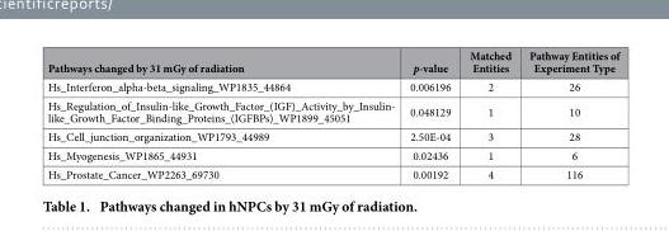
<table><thead><tr><td>Pathways changed by 31 mGy of radiation</td><td>p-value</td><td>Matched Entities</td><td>Pathway Entities of Experiment Type</td></tr></thead><tbody><tr><td>Hs_Interferon_alpha-beta_signaling_WP1835_44864</td><td>0.006196</td><td>2</td><td>26</td></tr><tr><td>Hs_Regulation_of_Insulin-like_Growth_Factor_(IGF)_Activity_by_Insulin- like_Growth_Factor_Binding_Proteins_(IGFBPs)_WP1899_45051</td><td>0.048129</td><td>1</td><td>10</td></tr><tr><td>Hs_Cell_junction_organization_WP1793_44989</td><td>2.50E-04</td><td>3</td><td>28</td></tr><tr><td>Hs_Myogenesis_WP1865_44931</td><td>0.02436</td><td>1</td><td>6</td></tr><tr><td>Hs_Prostate_Cancer_WP2263_69730</td><td>0.00192</td><td>4</td><td>116</td></tr></tbody></table>